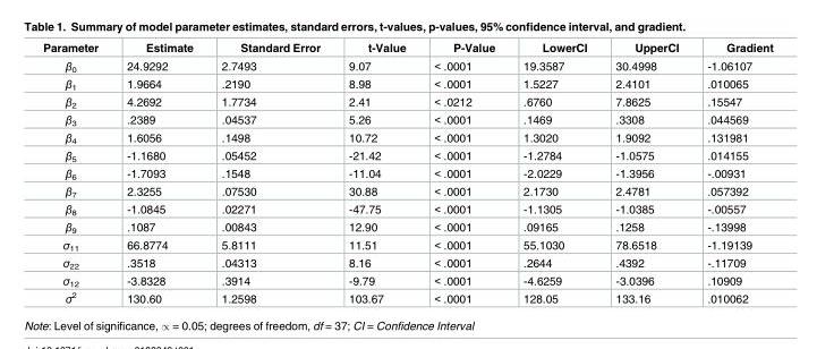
<table><thead><tr><td>Parameter</td><td>Estimate</td><td>Standard Error</td><td>t-Value</td><td>P-Value</td><td>LowerCI</td><td>UpperCI</td><td>Gradient</td></tr></thead><tbody><tr><td>β<sub>0</sub></td><td>24.9292</td><td>2.7493</td><td>9.07</td><td>&lt; .0001</td><td>19.3587</td><td>30.4998</td><td>-1.06107</td></tr><tr><td>β<sub>1</sub></td><td>1.9664</td><td>.2190</td><td>8.98</td><td>&lt; .0001</td><td>1.5227</td><td>2.4101</td><td>.010065</td></tr><tr><td>β<sub>2</sub></td><td>4.2692</td><td>1.7734</td><td>2.41</td><td>&lt; .0212</td><td>.6760</td><td>7.8625</td><td>.15547</td></tr><tr><td>β<sub>3</sub></td><td>.2389</td><td>.04537</td><td>5.26</td><td>&lt; .0001</td><td>.1469</td><td>.3308</td><td>.044569</td></tr><tr><td>β<sub>4</sub></td><td>1.6056</td><td>.1498</td><td>10.72</td><td>&lt; .0001</td><td>1.3020</td><td>1.9092</td><td>.131981</td></tr><tr><td>β<sub>5</sub></td><td>-1.1680</td><td>.05452</td><td>-21.42</td><td>&lt; .0001</td><td>-1.2784</td><td>-1.0575</td><td>.014155</td></tr><tr><td>β<sub>6</sub></td><td>-1.7093</td><td>.1548</td><td>-11.04</td><td>&lt; .0001</td><td>-2.0229</td><td>-1.3956</td><td>-.00931</td></tr><tr><td>β<sub>7</sub></td><td>2.3255</td><td>.07530</td><td>30.88</td><td>&lt; .0001</td><td>2.1730</td><td>2.4781</td><td>.057392</td></tr><tr><td>β<sub>8</sub></td><td>-1.0845</td><td>.02271</td><td>-47.75</td><td>&lt; .0001</td><td>-1.1305</td><td>-1.0385</td><td>-.00557</td></tr><tr><td>β<sub>9</sub></td><td>.1087</td><td>.00843</td><td>12.90</td><td>&lt; .0001</td><td>.09165</td><td>.1258</td><td>-.13998</td></tr><tr><td>σ<sub>11</sub></td><td>66.8774</td><td>5.8111</td><td>11.51</td><td>&lt; .0001</td><td>55.1030</td><td>78.6518</td><td>-1.19139</td></tr><tr><td>σ<sub>22</sub></td><td>.3518</td><td>.04313</td><td>8.16</td><td>&lt; .0001</td><td>.2644</td><td>.4392</td><td>-.11709</td></tr><tr><td>σ<sub>12</sub></td><td>-3.8328</td><td>.3914</td><td>-9.79</td><td>&lt; .0001</td><td>-4.6259</td><td>-3.0396</td><td>.10909</td></tr><tr><td>σ<sup>2</sup></td><td>130.60</td><td>1.2598</td><td>103.67</td><td>&lt; .0001</td><td>128.05</td><td>133.16</td><td>.010062</td></tr></tbody></table>